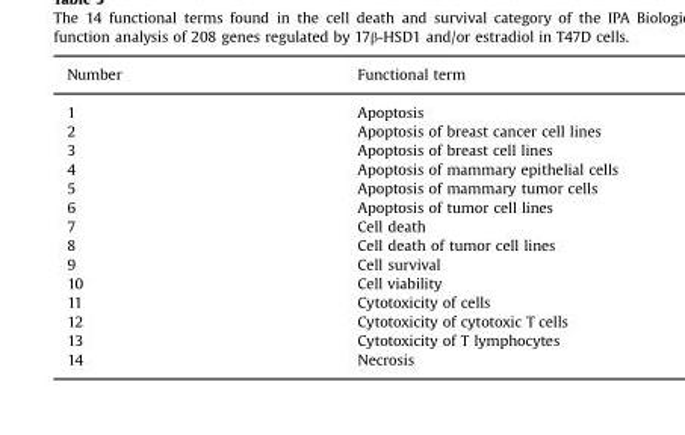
<table><thead><tr><td>Number</td><td>Functional term</td></tr></thead><tbody><tr><td>1</td><td>Apoptosis</td></tr><tr><td>2</td><td>Apoptosis of breast cancer cell lines</td></tr><tr><td>3</td><td>Apoptosis of breast cell lines</td></tr><tr><td>4</td><td>Apoptosis of mammary epithelial cells</td></tr><tr><td>5</td><td>Apoptosis of mammary tumor cells</td></tr><tr><td>6</td><td>Apoptosis of tumor cell lines</td></tr><tr><td>7</td><td>Cell death</td></tr><tr><td>8</td><td>Cell death of tumor cell lines</td></tr><tr><td>9</td><td>Cell survival</td></tr><tr><td>10</td><td>Cell viability</td></tr><tr><td>11</td><td>Cytotoxicity of cells</td></tr><tr><td>12</td><td>Cytotoxicity of cytotoxic T cells</td></tr><tr><td>13</td><td>Cytotoxicity of T lymphocytes</td></tr><tr><td>14</td><td>Necrosis</td></tr></tbody></table>